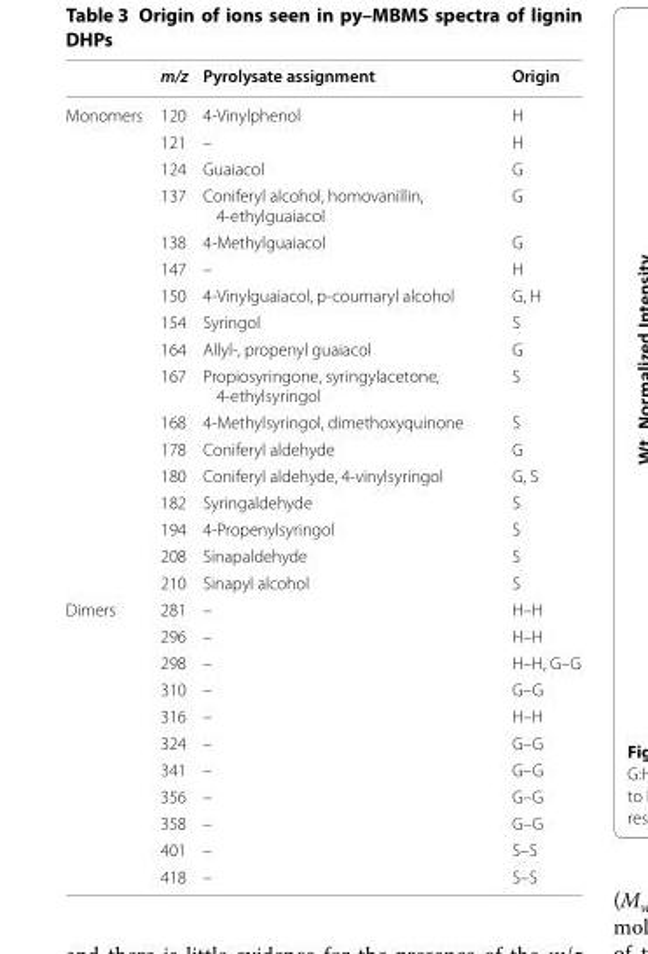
<table><thead><tr><td></td><td>m/z</td><td>Pyrolysate assignment</td><td>Origin</td></tr></thead><tbody><tr><td rowspan="17">Monomers</td><td>120</td><td>4‑Vinylphenol</td><td>H</td></tr><tr><td>121</td><td>–</td><td>H</td></tr><tr><td>124</td><td>Guaiacol</td><td>G</td></tr><tr><td>137</td><td>Coniferyl alcohol, homovanillin, 4‑ethylguaiacol</td><td>G</td></tr><tr><td>138</td><td>4‑Methylguaiacol</td><td>G</td></tr><tr><td>147</td><td>–</td><td>H</td></tr><tr><td>150</td><td>4‑Vinylguaiacol, p‑coumaryl alcohol</td><td>G, H</td></tr><tr><td>154</td><td>Syringol</td><td>S</td></tr><tr><td>164</td><td>Allyl‑, propenyl guaiacol</td><td>G</td></tr><tr><td>167</td><td>Propiosyringone, syringylacetone, 4‑ethylsyringol</td><td>S</td></tr><tr><td>168</td><td>4‑Methylsyringol, dimethoxyquinone</td><td>S</td></tr><tr><td>178</td><td>Coniferyl aldehyde</td><td>G</td></tr><tr><td>180</td><td>Coniferyl aldehyde, 4‑vinylsyringol</td><td>G, S</td></tr><tr><td>182</td><td>Syringaldehyde</td><td>S</td></tr><tr><td>194</td><td>4‑Propenylsyringol</td><td>S</td></tr><tr><td>208</td><td>Sinapaldehyde</td><td>S</td></tr><tr><td>210</td><td>Sinapyl alcohol</td><td>S</td></tr><tr><td rowspan="11">Dimers</td><td>281</td><td>–</td><td>H–H</td></tr><tr><td>296</td><td>–</td><td>H–H</td></tr><tr><td>298</td><td>–</td><td>H–H, G–G</td></tr><tr><td>310</td><td>–</td><td>G–G</td></tr><tr><td>316</td><td>–</td><td>H–H</td></tr><tr><td>324</td><td>–</td><td>G–G</td></tr><tr><td>341</td><td>–</td><td>G–G</td></tr><tr><td>356</td><td>–</td><td>G–G</td></tr><tr><td>358</td><td>–</td><td>G–G</td></tr><tr><td>401</td><td>–</td><td>S–S</td></tr><tr><td>418</td><td>–</td><td>S–S</td></tr></tbody></table>